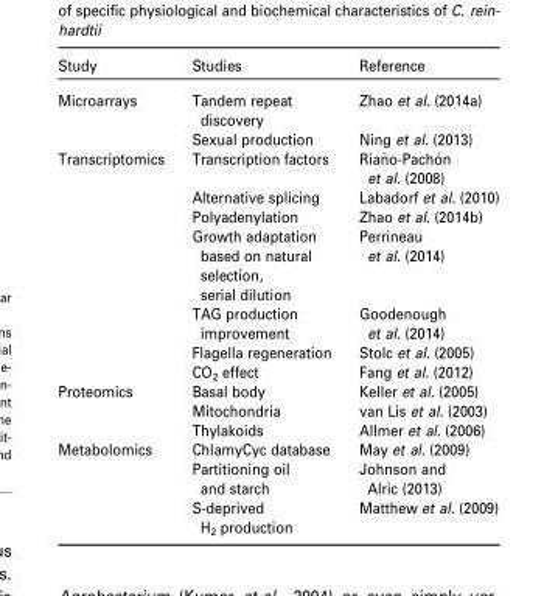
<table><thead><tr><td>Study</td><td>Studies</td><td>Reference</td></tr></thead><tbody><tr><td rowspan="2">Microarrays</td><td>Tandem repeat discovery</td><td>Zhao et al. (2014a)</td></tr><tr><td>Sexual production</td><td>Ning et al. (2013)</td></tr><tr><td rowspan="7">Transcriptomics</td><td>Transcription factors</td><td>Ria~no-Pach�on et al. (2008)</td></tr><tr><td>Alternative splicing</td><td>Labadorf et al. (2010)</td></tr><tr><td>Polyadenylation</td><td>Zhao et al. (2014b)</td></tr><tr><td>Growth adaptation based on natural selection, serial dilution</td><td>Perrineau et al. (2014)</td></tr><tr><td>TAG production improvement</td><td>Goodenough et al. (2014)</td></tr><tr><td>Flagella regeneration</td><td>Stolc et al. (2005)</td></tr><tr><td>CO<sub>2</sub> effect</td><td>Fang et al. (2012)</td></tr><tr><td rowspan="3">Proteomics</td><td>Basal body</td><td>Keller et al. (2005)</td></tr><tr><td>Mitochondria</td><td>van Lis et al. (2003)</td></tr><tr><td>Thylakoids</td><td>Allmer et al. (2006)</td></tr><tr><td rowspan="3">Metabolomics</td><td>ChlamyCyc database</td><td>May et al. (2009)</td></tr><tr><td>Partitioning oil and starch</td><td>Johnson and Alric (2013)</td></tr><tr><td>S-deprived H<sub>2</sub> production</td><td>Matthew et al. (2009)</td></tr></tbody></table>